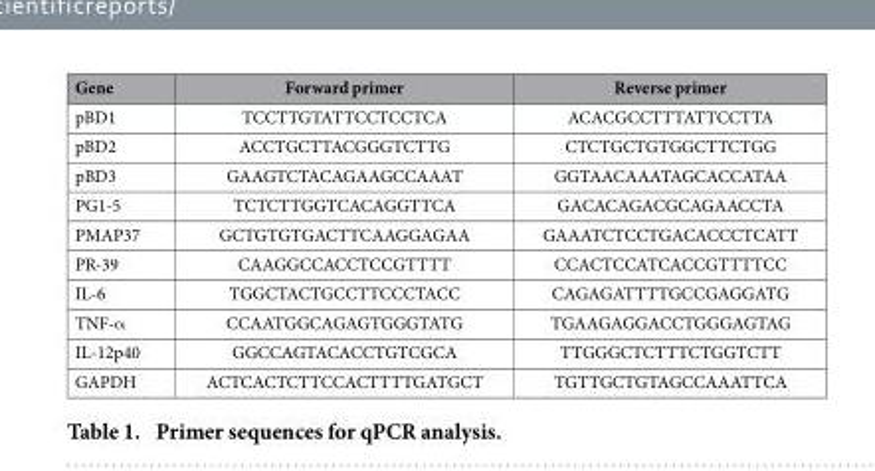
<table><thead><tr><td>Gene</td><td>Forward primer</td><td>Reverse primer</td></tr></thead><tbody><tr><td>pBD1</td><td>TCCTTGTATTCCTCCTCA</td><td>ACACGCCTTTATTCCTTA</td></tr><tr><td>pBD2</td><td>ACCTGCTTACGGGTCTTG</td><td>CTCTGCTGTGGCTTCTGG</td></tr><tr><td>pBD3</td><td>GAAGTCTACAGAAGCCAAAT</td><td>GGTAACAAATAGCACCATAA</td></tr><tr><td>PG1-5</td><td>TCTCTTGGTCACAGGTTCA</td><td>GACACAGACGCAGAACCTA</td></tr><tr><td>PMAP37</td><td>GCTGTGTGACTTCAAGGAGAA</td><td>GAAATCTCCTGACACCCTCATT</td></tr><tr><td>PR-39</td><td>CAAGGCCACCTCCGTTTT</td><td>CCACTCCATCACCGTTTTCC</td></tr><tr><td>IL-6</td><td>TGGCTACTGCCTTCCCTACC</td><td>CAGAGATTTTGCCGAGGATG</td></tr><tr><td>TNF-α</td><td>CCAATGGCAGAGTGGGTATG</td><td>TGAAGAGGACCTGGGAGTAG</td></tr><tr><td>IL-12p40</td><td>GGCCAGTACACCTGTCGCA</td><td>TTGGGCTCTTTCTGGTCTT</td></tr><tr><td>GAPDH</td><td>ACTCACTCTTCCACTTTTGATGCT</td><td>TGTTGCTGTAGCCAAATTCA</td></tr></tbody></table>